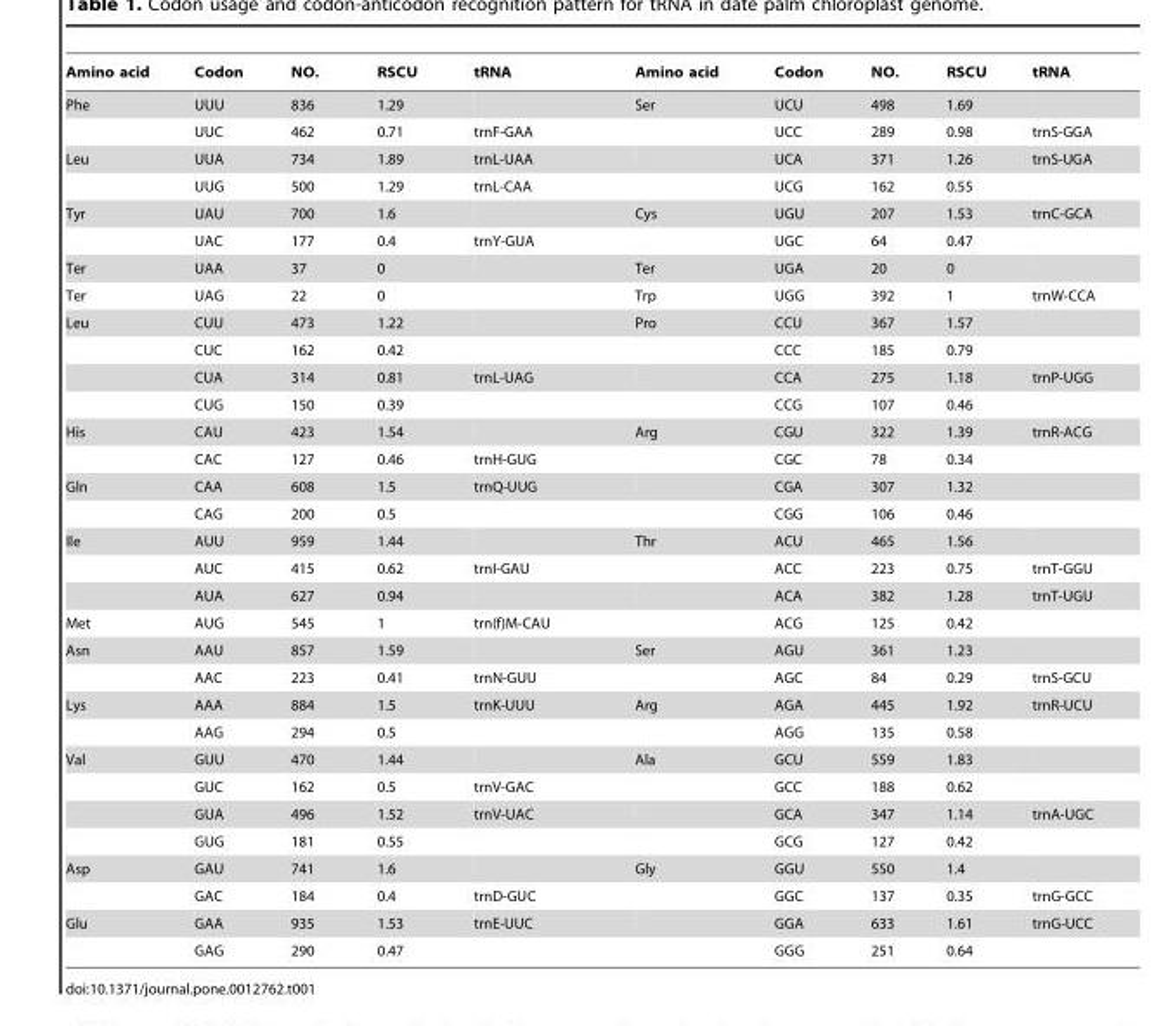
<table><thead><tr><td>Amino acid</td><td>Codon</td><td>NO.</td><td>RSCU</td><td>tRNA</td><td>Amino acid</td><td>Codon</td><td>NO.</td><td>RSCU</td><td>tRNA</td></tr></thead><tbody><tr><td rowspan="2">Phe</td><td>UUU</td><td>836</td><td>1.29</td><td></td><td>Ser</td><td>UCU</td><td>498</td><td>1.69</td><td></td></tr><tr><td>UUC</td><td>462</td><td>0.71</td><td>trnF-GAA</td><td></td><td>UCC</td><td>289</td><td>0.98</td><td>trnS-GGA</td></tr><tr><td rowspan="2">Leu</td><td>UUA</td><td>734</td><td>1.89</td><td>trnL-UAA</td><td></td><td>UCA</td><td>371</td><td>1.26</td><td>trnS-UGA</td></tr><tr><td>UUG</td><td>500</td><td>1.29</td><td>trnL-CAA</td><td></td><td>UCG</td><td>162</td><td>0.55</td><td></td></tr><tr><td rowspan="2">Tyr</td><td>UAU</td><td>700</td><td>1.6</td><td></td><td>Cys</td><td>UGU</td><td>207</td><td>1.53</td><td>trnC-GCA</td></tr><tr><td>UAC</td><td>177</td><td>0.4</td><td>trnY-GUA</td><td></td><td>UGC</td><td>64</td><td>0.47</td><td></td></tr><tr><td>Ter</td><td>UAA</td><td>37</td><td>0</td><td></td><td>Ter</td><td>UGA</td><td>20</td><td>0</td><td></td></tr><tr><td>Ter</td><td>UAG</td><td>22</td><td>0</td><td></td><td>Trp</td><td>UGG</td><td>392</td><td>1</td><td>trnW-CCA</td></tr><tr><td rowspan="4">Leu</td><td>CUU</td><td>473</td><td>1.22</td><td></td><td>Pro</td><td>CCU</td><td>367</td><td>1.57</td><td></td></tr><tr><td>CUC</td><td>162</td><td>0.42</td><td></td><td></td><td>CCC</td><td>185</td><td>0.79</td><td></td></tr><tr><td>CUA</td><td>314</td><td>0.81</td><td>trnL-UAG</td><td></td><td>CCA</td><td>275</td><td>1.18</td><td>trnP-UGG</td></tr><tr><td>CUG</td><td>150</td><td>0.39</td><td></td><td></td><td>CCG</td><td>107</td><td>0.46</td><td></td></tr><tr><td rowspan="2">His</td><td>CAU</td><td>423</td><td>1.54</td><td></td><td>Arg</td><td>CGU</td><td>322</td><td>1.39</td><td>trnR-ACG</td></tr><tr><td>CAC</td><td>127</td><td>0.46</td><td>trnH-GUG</td><td></td><td>CGC</td><td>78</td><td>0.34</td><td></td></tr><tr><td rowspan="2">Gln</td><td>CAA</td><td>608</td><td>1.5</td><td>trnQ-UUG</td><td></td><td>CGA</td><td>307</td><td>1.32</td><td></td></tr><tr><td>CAG</td><td>200</td><td>0.5</td><td></td><td></td><td>CGG</td><td>106</td><td>0.46</td><td></td></tr><tr><td rowspan="3">Ile</td><td>AUU</td><td>959</td><td>1.44</td><td></td><td>Thr</td><td>ACU</td><td>465</td><td>1.56</td><td></td></tr><tr><td>AUC</td><td>415</td><td>0.62</td><td>trnI-GAU</td><td></td><td>ACC</td><td>223</td><td>0.75</td><td>trnT-GGU</td></tr><tr><td>AUA</td><td>627</td><td>0.94</td><td></td><td></td><td>ACA</td><td>382</td><td>1.28</td><td>trnT-UGU</td></tr><tr><td>Met</td><td>AUG</td><td>545</td><td>1</td><td>trn(f)M-CAU</td><td></td><td>ACG</td><td>125</td><td>0.42</td><td></td></tr><tr><td rowspan="2">Asn</td><td>AAU</td><td>857</td><td>1.59</td><td></td><td>Ser</td><td>AGU</td><td>361</td><td>1.23</td><td></td></tr><tr><td>AAC</td><td>223</td><td>0.41</td><td>trnN-GUU</td><td></td><td>AGC</td><td>84</td><td>0.29</td><td>trnS-GCU</td></tr><tr><td rowspan="2">Lys</td><td>AAA</td><td>884</td><td>1.5</td><td>trnK-UUU</td><td>Arg</td><td>AGA</td><td>445</td><td>1.92</td><td>trnR-UCU</td></tr><tr><td>AAG</td><td>294</td><td>0.5</td><td></td><td></td><td>AGG</td><td>135</td><td>0.58</td><td></td></tr><tr><td rowspan="4">Val</td><td>GUU</td><td>470</td><td>1.44</td><td></td><td>Ala</td><td>GCU</td><td>559</td><td>1.83</td><td></td></tr><tr><td>GUC</td><td>162</td><td>0.5</td><td>trnV-GAC</td><td></td><td>GCC</td><td>188</td><td>0.62</td><td></td></tr><tr><td>GUA</td><td>496</td><td>1.52</td><td>trnV-UAC</td><td></td><td>GCA</td><td>347</td><td>1.14</td><td>trnA-UGC</td></tr><tr><td>GUG</td><td>181</td><td>0.55</td><td></td><td></td><td>GCG</td><td>127</td><td>0.42</td><td></td></tr><tr><td rowspan="2">Asp</td><td>GAU</td><td>741</td><td>1.6</td><td></td><td>Gly</td><td>GGU</td><td>550</td><td>1.4</td><td></td></tr><tr><td>GAC</td><td>184</td><td>0.4</td><td>trnD-GUC</td><td></td><td>GGC</td><td>137</td><td>0.35</td><td>trnG-GCC</td></tr><tr><td rowspan="2">Glu</td><td>GAA</td><td>935</td><td>1.53</td><td>trnE-UUC</td><td></td><td>GGA</td><td>633</td><td>1.61</td><td>trnG-UCC</td></tr><tr><td>GAG</td><td>290</td><td>0.47</td><td></td><td></td><td>GGG</td><td>251</td><td>0.64</td><td></td></tr></tbody></table>